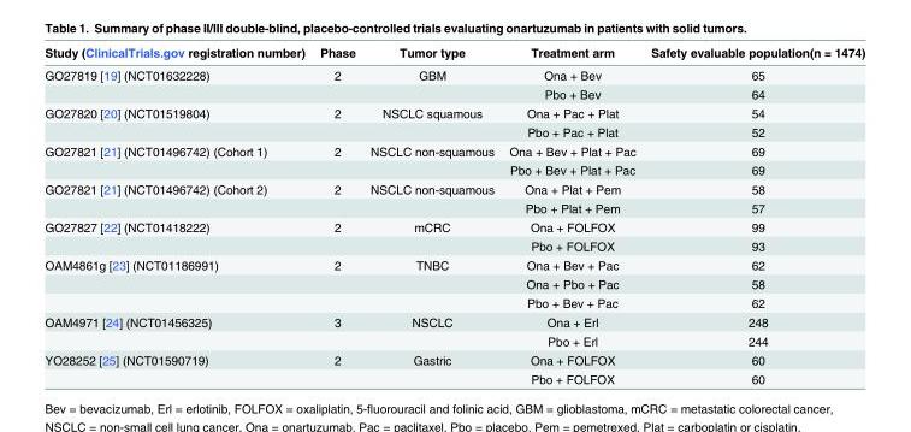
<table><thead><tr><td>Study (ClinicalTrials.gov registration number)</td><td>Phase</td><td>Tumor type</td><td>Treatment arm</td><td>Safety evaluable population(n = 1474)</td></tr></thead><tbody><tr><td rowspan="2">GO27819 [19] (NCT01632228)</td><td>2</td><td>GBM</td><td>Ona + Bev</td><td>65</td></tr><tr><td></td><td></td><td>Pbo + Bev</td><td>64</td></tr><tr><td rowspan="2">GO27820 [20] (NCT01519804)</td><td>2</td><td>NSCLC squamous</td><td>Ona + Pac + Plat</td><td>54</td></tr><tr><td></td><td></td><td>Pbo + Pac + Plat</td><td>52</td></tr><tr><td rowspan="2">GO27821 [21] (NCT01496742) (Cohort 1)</td><td>2</td><td>NSCLC non-squamous</td><td>Ona + Bev + Plat + Pac</td><td>69</td></tr><tr><td></td><td></td><td>Pbo + Bev + Plat + Pac</td><td>69</td></tr><tr><td rowspan="2">GO27821 [21] (NCT01496742) (Cohort 2)</td><td>2</td><td>NSCLC non-squamous</td><td>Ona + Plat + Pem</td><td>58</td></tr><tr><td></td><td></td><td>Pbo + Plat + Pem</td><td>57</td></tr><tr><td rowspan="2">GO27827 [22] (NCT01418222)</td><td>2</td><td>mCRC</td><td>Ona + FOLFOX</td><td>99</td></tr><tr><td></td><td></td><td>Pbo + FOLFOX</td><td>93</td></tr><tr><td rowspan="3">OAM4861g [23] (NCT01186991)</td><td>2</td><td>TNBC</td><td>Ona + Bev + Pac</td><td>62</td></tr><tr><td></td><td></td><td>Ona + Pbo + Pac</td><td>58</td></tr><tr><td></td><td></td><td>Pbo + Bev + Pac</td><td>62</td></tr><tr><td rowspan="2">OAM4971 [24] (NCT01456325)</td><td>3</td><td>NSCLC</td><td>Ona + Erl</td><td>248</td></tr><tr><td></td><td></td><td>Pbo + Erl</td><td>244</td></tr><tr><td rowspan="2">YO28252 [25] (NCT01590719)</td><td>2</td><td>Gastric</td><td>Ona + FOLFOX</td><td>60</td></tr><tr><td></td><td></td><td>Pbo + FOLFOX</td><td>60</td></tr></tbody></table>